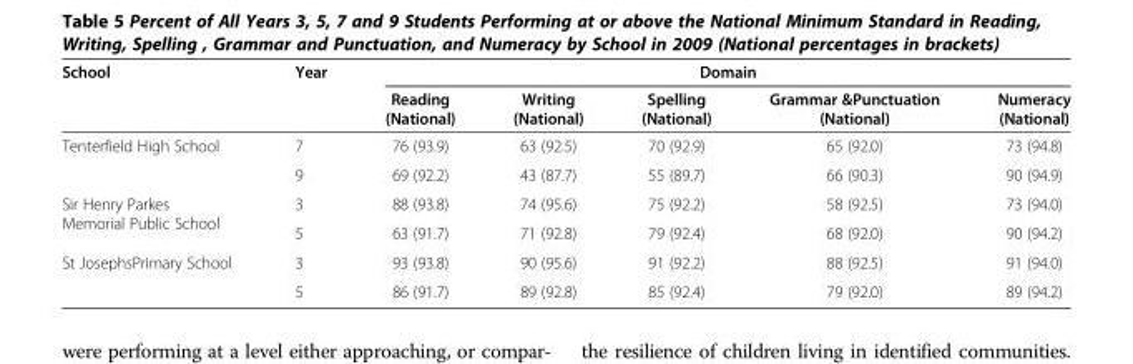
<table><thead><tr><td rowspan="2">School</td><td rowspan="2">Year</td><td colspan="5">Domain</td></tr><tr><td>Reading (National)</td><td>Writing (National)</td><td>Spelling (National)</td><td>Grammar &amp;Punctuation (National)</td><td>Numeracy (National)</td></tr></thead><tbody><tr><td rowspan="2">Tenterfield High School</td><td>7</td><td>76 (93.9)</td><td>63 (92.5)</td><td>70 (92.9)</td><td>65 (92.0)</td><td>73 (94.8)</td></tr><tr><td>9</td><td>69 (92.2)</td><td>43 (87.7)</td><td>55 (89.7)</td><td>66 (90.3)</td><td>90 (94.9)</td></tr><tr><td rowspan="2">Sir Henry Parkes Memorial Public School</td><td>3</td><td>88 (93.8)</td><td>74 (95.6)</td><td>75 (92.2)</td><td>58 (92.5)</td><td>73 (94.0)</td></tr><tr><td>5</td><td>63 (91.7)</td><td>71 (92.8)</td><td>79 (92.4)</td><td>68 (92.0)</td><td>90 (94.2)</td></tr><tr><td rowspan="2">St JosephsPrimary School</td><td>3</td><td>93 (93.8)</td><td>90 (95.6)</td><td>91 (92.2)</td><td>88 (92.5)</td><td>91 (94.0)</td></tr><tr><td>5</td><td>86 (91.7)</td><td>89 (92.8)</td><td>85 (92.4)</td><td>79 (92.0)</td><td>89 (94.2)</td></tr></tbody></table>